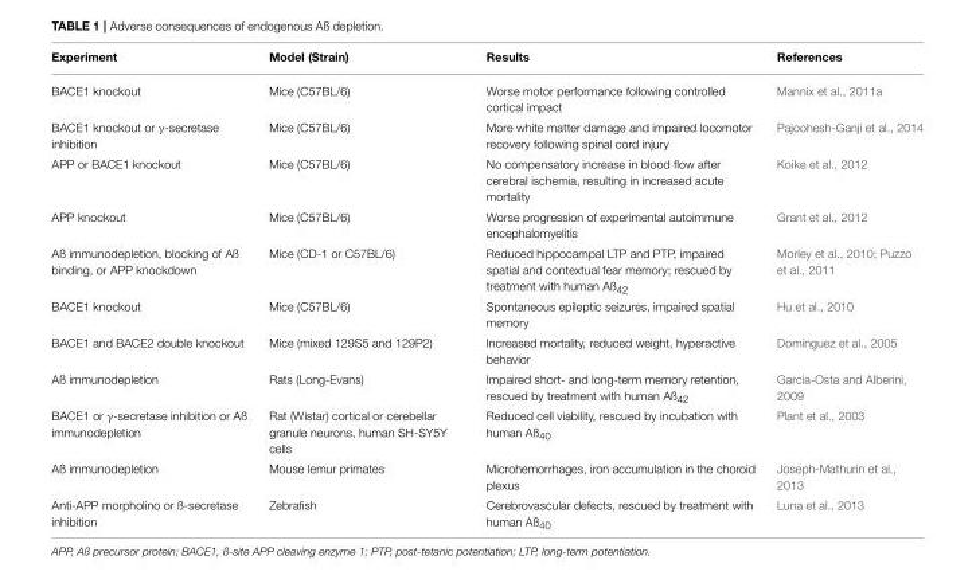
<table><thead><tr><td>Experiment</td><td>Model (Strain)</td><td>Results</td><td>References</td></tr></thead><tbody><tr><td>BACE1 knockout</td><td>Mice (C57BL/6)</td><td>Worse motor performance following controlled cortical impact</td><td>Mannix et al., 2011a</td></tr><tr><td>BACE1 knockout or γ-secretase inhibition</td><td>Mice (C57BL/6)</td><td>More white matter damage and impaired locomotor recovery following spinal cord injury</td><td>Pajoohesh-Ganji et al., 2014</td></tr><tr><td>APP or BACE1 knockout</td><td>Mice (C57BL/6)</td><td>No compensatory increase in blood flow after cerebral ischemia, resulting in increased acute mortality</td><td>Koike et al., 2012</td></tr><tr><td>APP knockout</td><td>Mice (C57BL/6)</td><td>Worse progression of experimental autoimmune encephalomyelitis</td><td>Grant et al., 2012</td></tr><tr><td>Aß immunodepletion, blocking of Aß binding, or APP knockdown</td><td>Mice (CD-1 or C57BL/6)</td><td>Reduced hippocampal LTP and PTP, impaired spatial and contextual fear memory; rescued by treatment with human Aß<sub>42</sub></td><td>Morley et al., 2010; Puzzo et al., 2011</td></tr><tr><td>BACE1 knockout</td><td>Mice (C57BL/6)</td><td>Spontaneous epileptic seizures, impaired spatial memory</td><td>Hu et al., 2010</td></tr><tr><td>BACE1 and BACE2 double knockout</td><td>Mice (mixed 129S5 and 129P2)</td><td>Increased mortality, reduced weight, hyperactive behavior</td><td>Dominguez et al., 2005</td></tr><tr><td>Aß immunodepletion</td><td>Rats (Long-Evans)</td><td>Impaired short- and long-term memory retention, rescued by treatment with human Aß<sub>42</sub></td><td>Garcia-Osta and Alberini, 2009</td></tr><tr><td>BACE1 or γ-secretase inhibition or Aß immunodepletion</td><td>Rat (Wistar) cortical or cerebellar granule neurons, human SH-SY5Y cells</td><td>Reduced cell viability, rescued by incubation with human Aß<sub>40</sub></td><td>Plant et al., 2003</td></tr><tr><td>Aß immunodepletion</td><td>Mouse lemur primates</td><td>Microhemorrhages, iron accumulation in the choroid plexus</td><td>Joseph-Mathurin et al., 2013</td></tr><tr><td>Anti-APP morpholino or ß-secretase inhibition</td><td>Zebrafish</td><td>Cerebrovascular defects, rescued by treatment with human Aß<sub>40</sub></td><td>Luna et al., 2013</td></tr></tbody></table>